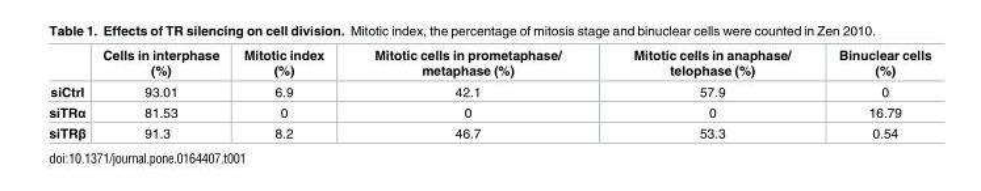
<table><thead><tr><td></td><td>Cells in interphase (%)</td><td>Mitotic index (%)</td><td>Mitotic cells in prometaphase/ metaphase (%)</td><td>Mitotic cells in anaphase/ telophase (%)</td><td>Binuclear cells (%)</td></tr></thead><tbody><tr><td>siCtrl</td><td>93.01</td><td>6.9</td><td>42.1</td><td>57.9</td><td>0</td></tr><tr><td>siTRα</td><td>81.53</td><td>0</td><td>0</td><td>0</td><td>16.79</td></tr><tr><td>siTRβ</td><td>91.3</td><td>8.2</td><td>46.7</td><td>53.3</td><td>0.54</td></tr></tbody></table>